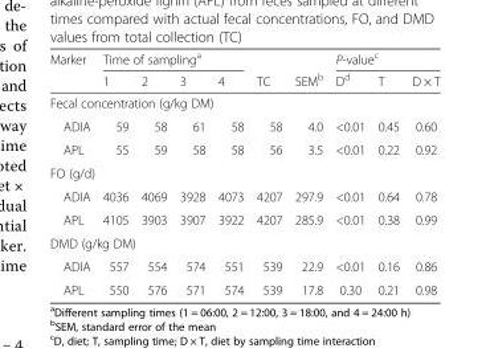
<table><thead><tr><td rowspan="2">Marker</td><td colspan="4">Time of sampling<sup>a</sup></td><td rowspan="2">TC</td><td rowspan="2">SEM<sup>b</sup></td><td colspan="3">P-value<sup>c</sup></td></tr><tr><td>1</td><td>2</td><td>3</td><td>4</td><td>D<sup>d</sup></td><td>T</td><td>D × T</td></tr></thead><tbody><tr><td colspan="10">Fecal concentration (g/kg DM)</td></tr><tr><td>ADIA</td><td>59</td><td>58</td><td>61</td><td>58</td><td>58</td><td>4.0</td><td>&lt;0.01</td><td>0.45</td><td>0.60</td></tr><tr><td>APL</td><td>55</td><td>59</td><td>58</td><td>58</td><td>56</td><td>3.5</td><td>&lt;0.01</td><td>0.22</td><td>0.92</td></tr><tr><td colspan="10">FO (g/d)</td></tr><tr><td>ADIA</td><td>4036</td><td>4069</td><td>3928</td><td>4073</td><td>4207</td><td>297.9</td><td>&lt;0.01</td><td>0.64</td><td>0.78</td></tr><tr><td>APL</td><td>4105</td><td>3903</td><td>3907</td><td>3922</td><td>4207</td><td>285.9</td><td>&lt;0.01</td><td>0.38</td><td>0.99</td></tr><tr><td colspan="10">DMD (g/kg DM)</td></tr><tr><td>ADIA</td><td>557</td><td>554</td><td>574</td><td>551</td><td>539</td><td>22.9</td><td>&lt;0.01</td><td>0.16</td><td>0.86</td></tr><tr><td>APL</td><td>550</td><td>576</td><td>571</td><td>574</td><td>539</td><td>17.8</td><td>0.30</td><td>0.21</td><td>0.98</td></tr></tbody></table>